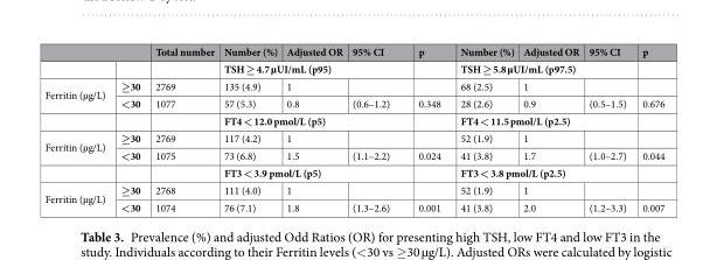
<table><thead><tr><td></td><td></td><td>Total number</td><td>Number (%)</td><td>Adjusted OR</td><td>95% CI</td><td>p</td><td>Number (%)</td><td>Adjusted OR</td><td>95% CI</td><td>p</td></tr></thead><tbody><tr><td></td><td></td><td></td><td colspan="3">TSH ≥ 4.7 µUI/mL (p95)</td><td></td><td colspan="3">TSH ≥ 5.8 µUI/mL (p97.5)</td><td></td></tr><tr><td rowspan="3">Ferritin (µg/L)</td><td>≥30</td><td>2769</td><td>135 (4.9)</td><td>1</td><td></td><td></td><td>68 (2.5)</td><td>1</td><td></td><td></td></tr><tr><td>&lt;30</td><td>1077</td><td>57 (5.3)</td><td>0.8</td><td>(0.6–1.2)</td><td>0.348</td><td>28 (2.6)</td><td>0.9</td><td>(0.5–1.5)</td><td>0.676</td></tr><tr><td></td><td></td><td colspan="3">FT4 &lt; 12.0 pmol/L (p5)</td><td></td><td colspan="3">FT4 &lt; 11.5 pmol/L (p2.5)</td><td></td></tr><tr><td rowspan="3">Ferritin (µg/L)</td><td>≥30</td><td>2769</td><td>117 (4.2)</td><td>1</td><td></td><td></td><td>52 (1.9)</td><td>1</td><td></td><td></td></tr><tr><td>&lt;30</td><td>1075</td><td>73 (6.8)</td><td>1.5</td><td>(1.1–2.2)</td><td>0.024</td><td>41 (3.8)</td><td>1.7</td><td>(1.0–2.7)</td><td>0.044</td></tr><tr><td></td><td></td><td colspan="3">FT3 &lt; 3.9 pmol/L (p5)</td><td></td><td colspan="3">FT3 &lt; 3.8 pmol/L (p2.5)</td><td></td></tr><tr><td rowspan="2">Ferritin (µg/L)</td><td>≥30</td><td>2768</td><td>111 (4.0)</td><td>1</td><td></td><td></td><td>52 (1.9)</td><td>1</td><td></td><td></td></tr><tr><td>&lt;30</td><td>1074</td><td>76 (7.1)</td><td>1.8</td><td>(1.3–2.6)</td><td>0.001</td><td>41 (3.8)</td><td>2.0</td><td>(1.2–3.3)</td><td>0.007</td></tr></tbody></table>